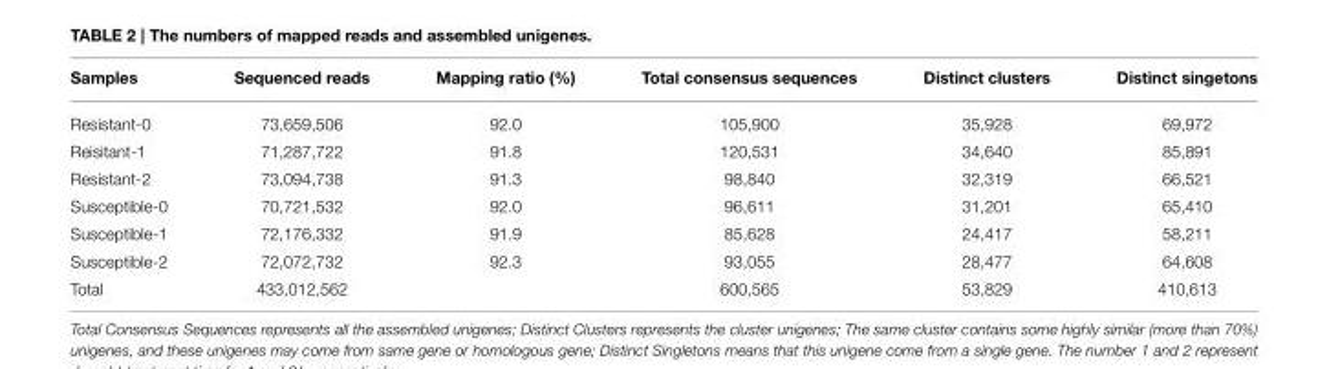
<table><thead><tr><td>Samples</td><td>Sequenced reads</td><td>Mapping ratio (%)</td><td>Total consensus sequences</td><td>Distinct clusters</td><td>Distinct singetons</td></tr></thead><tbody><tr><td>Resistant-0</td><td>73,659,506</td><td>92.0</td><td>105,900</td><td>35,928</td><td>69,972</td></tr><tr><td>Reisitant-1</td><td>71,287,722</td><td>91.8</td><td>120,531</td><td>34,640</td><td>85,891</td></tr><tr><td>Resistant-2</td><td>73,094,738</td><td>91.3</td><td>98,840</td><td>32,319</td><td>66,521</td></tr><tr><td>Susceptible-0</td><td>70,721,532</td><td>92.0</td><td>96,611</td><td>31,201</td><td>65,410</td></tr><tr><td>Susceptible-1</td><td>72,176,332</td><td>91.9</td><td>85,628</td><td>24,417</td><td>58,211</td></tr><tr><td>Susceptible-2</td><td>72,072,732</td><td>92.3</td><td>93,055</td><td>28,477</td><td>64,608</td></tr><tr><td>Total</td><td>433,012,562</td><td></td><td>600,565</td><td>53,829</td><td>410,613</td></tr></tbody></table>